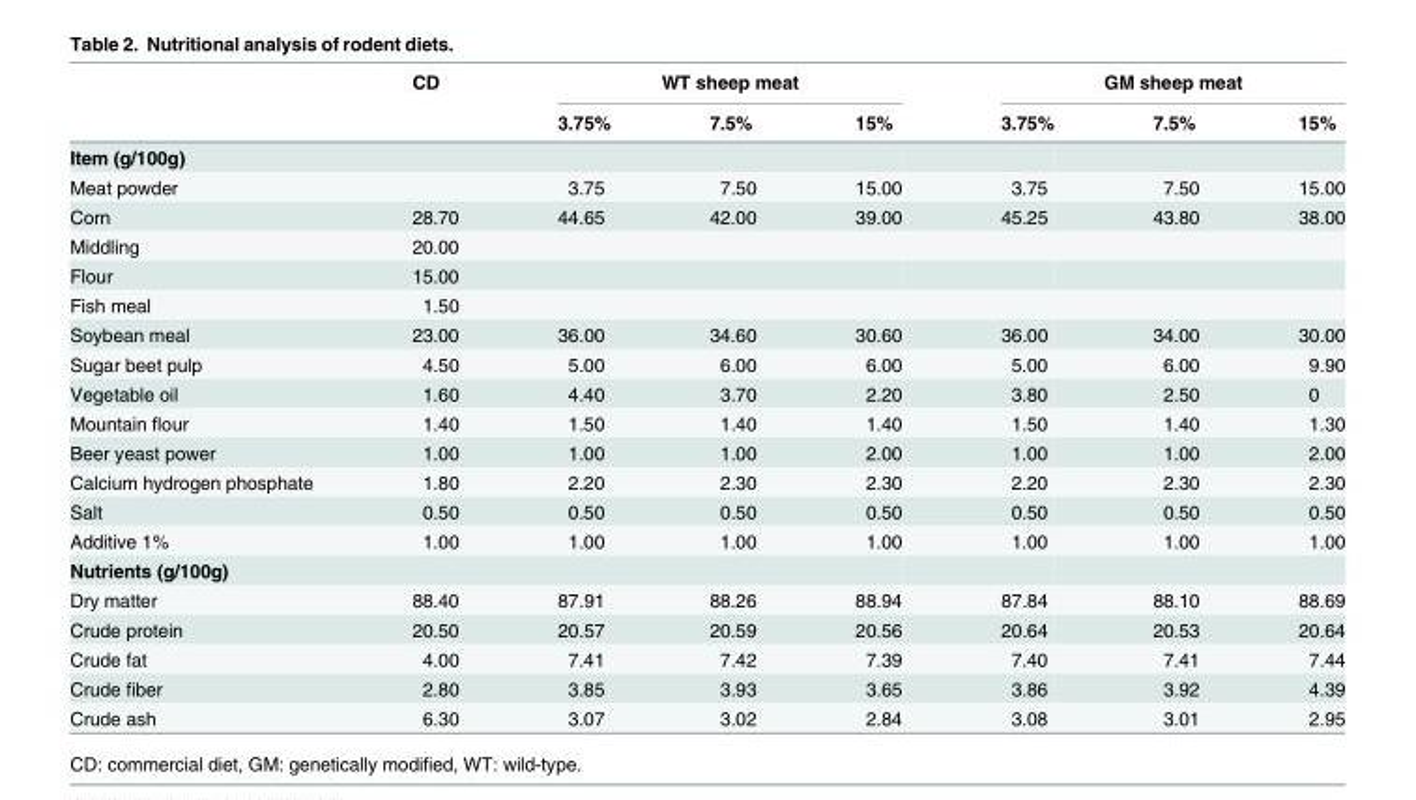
<table><thead><tr><td rowspan="2"></td><td rowspan="2">CD</td><td colspan="3">WT sheep meat</td><td colspan="3">GM sheep meat</td></tr><tr><td>3.75%</td><td>7.5%</td><td>15%</td><td>3.75%</td><td>7.5%</td><td>15%</td></tr></thead><tbody><tr><td colspan="8">Item (g/100g)</td></tr><tr><td>Meat powder</td><td></td><td>3.75</td><td>7.50</td><td>15.00</td><td>3.75</td><td>7.50</td><td>15.00</td></tr><tr><td>Corn</td><td>28.70</td><td>44.65</td><td>42.00</td><td>39.00</td><td>45.25</td><td>43.80</td><td>38.00</td></tr><tr><td>Middling</td><td>20.00</td><td></td><td></td><td></td><td></td><td></td><td></td></tr><tr><td>Flour</td><td>15.00</td><td></td><td></td><td></td><td></td><td></td><td></td></tr><tr><td>Fish meal</td><td>1.50</td><td></td><td></td><td></td><td></td><td></td><td></td></tr><tr><td>Soybean meal</td><td>23.00</td><td>36.00</td><td>34.60</td><td>30.60</td><td>36.00</td><td>34.00</td><td>30.00</td></tr><tr><td>Sugar beet pulp</td><td>4.50</td><td>5.00</td><td>6.00</td><td>6.00</td><td>5.00</td><td>6.00</td><td>9.90</td></tr><tr><td>Vegetable oil</td><td>1.60</td><td>4.40</td><td>3.70</td><td>2.20</td><td>3.80</td><td>2.50</td><td>0</td></tr><tr><td>Mountain flour</td><td>1.40</td><td>1.50</td><td>1.40</td><td>1.40</td><td>1.50</td><td>1.40</td><td>1.30</td></tr><tr><td>Beer yeast power</td><td>1.00</td><td>1.00</td><td>1.00</td><td>2.00</td><td>1.00</td><td>1.00</td><td>2.00</td></tr><tr><td>Calcium hydrogen phosphate</td><td>1.80</td><td>2.20</td><td>2.30</td><td>2.30</td><td>2.20</td><td>2.30</td><td>2.30</td></tr><tr><td>Salt</td><td>0.50</td><td>0.50</td><td>0.50</td><td>0.50</td><td>0.50</td><td>0.50</td><td>0.50</td></tr><tr><td>Additive 1%</td><td>1.00</td><td>1.00</td><td>1.00</td><td>1.00</td><td>1.00</td><td>1.00</td><td>1.00</td></tr><tr><td colspan="8">Nutrients (g/100g)</td></tr><tr><td>Dry matter</td><td>88.40</td><td>87.91</td><td>88.26</td><td>88.94</td><td>87.84</td><td>88.10</td><td>88.69</td></tr><tr><td>Crude protein</td><td>20.50</td><td>20.57</td><td>20.59</td><td>20.56</td><td>20.64</td><td>20.53</td><td>20.64</td></tr><tr><td>Crude fat</td><td>4.00</td><td>7.41</td><td>7.42</td><td>7.39</td><td>7.40</td><td>7.41</td><td>7.44</td></tr><tr><td>Crude fiber</td><td>2.80</td><td>3.85</td><td>3.93</td><td>3.65</td><td>3.86</td><td>3.92</td><td>4.39</td></tr><tr><td>Crude ash</td><td>6.30</td><td>3.07</td><td>3.02</td><td>2.84</td><td>3.08</td><td>3.01</td><td>2.95</td></tr></tbody></table>